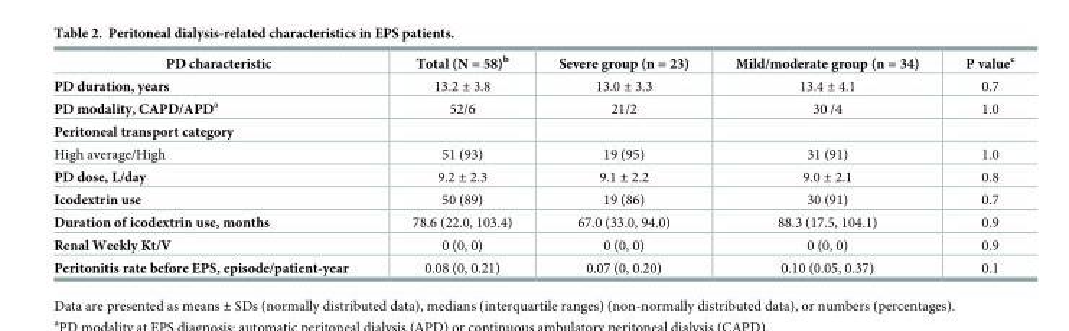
<table><thead><tr><td>PD characteristic</td><td>Total (N = 58)<sup>b</sup></td><td>Severe group (n = 23)</td><td>Mild/moderate group (n = 34)</td><td>P value<sup>c</sup></td></tr></thead><tbody><tr><td>PD duration, years</td><td>13.2 ± 3.8</td><td>13.0 ± 3.3</td><td>13.4 ± 4.1</td><td>0.7</td></tr><tr><td>PD modality, CAPD/APD<sup>a</sup></td><td>52/6</td><td>21/2</td><td>30 /4</td><td>1.0</td></tr><tr><td colspan="5">Peritoneal transport category</td></tr><tr><td>High average/High</td><td>51 (93)</td><td>19 (95)</td><td>31 (91)</td><td>1.0</td></tr><tr><td>PD dose, L/day</td><td>9.2 ± 2.3</td><td>9.1 ± 2.2</td><td>9.0 ± 2.1</td><td>0.8</td></tr><tr><td>Icodextrin use</td><td>50 (89)</td><td>19 (86)</td><td>30 (91)</td><td>0.7</td></tr><tr><td>Duration of icodextrin use, months</td><td>78.6 (22.0, 103.4)</td><td>67.0 (33.0, 94.0)</td><td>88.3 (17.5, 104.1)</td><td>0.9</td></tr><tr><td>Renal Weekly Kt/V</td><td>0 (0, 0)</td><td>0 (0, 0)</td><td>0 (0, 0)</td><td>0.9</td></tr><tr><td>Peritonitis rate before EPS, episode/patient-year</td><td>0.08 (0, 0.21)</td><td>0.07 (0, 0.20)</td><td>0.10 (0.05, 0.37)</td><td>0.1</td></tr></tbody></table>